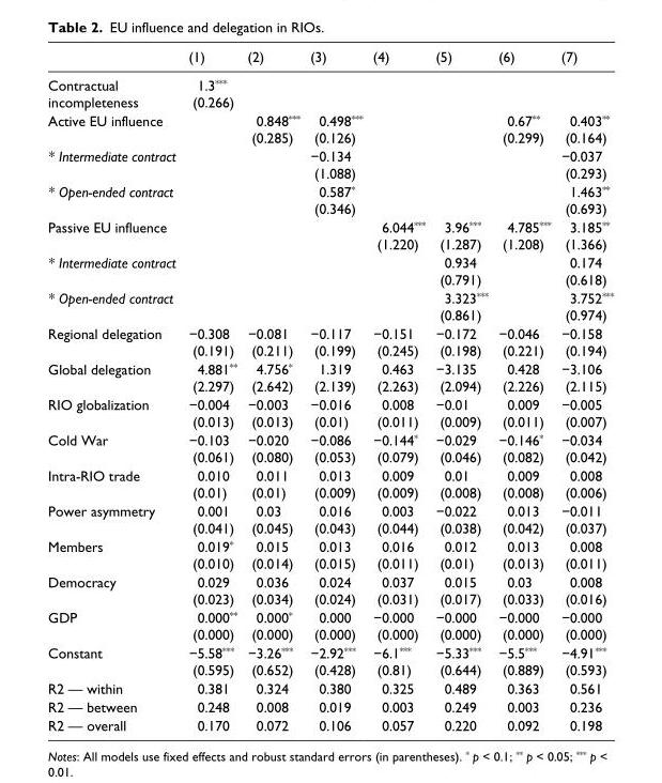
<table><thead><tr><td></td><td>(1)</td><td>(2)</td><td>(3)</td><td>(4)</td><td>(5)</td><td>(6)</td><td>(7)</td></tr></thead><tbody><tr><td>Contractual incompleteness</td><td>1.3*** (0.266)</td><td></td><td></td><td></td><td></td><td></td><td></td></tr><tr><td>Active EU influence</td><td></td><td>0.848*** (0.285)</td><td>0.498*** (0.126)</td><td></td><td></td><td>0.67** (0.299)</td><td>0.403** (0.164)</td></tr><tr><td>* Intermediate contract</td><td></td><td></td><td>−0.134 (1.088)</td><td></td><td></td><td></td><td>−0.037 (0.293)</td></tr><tr><td>* Open-ended contract</td><td></td><td></td><td>0.587* (0.346)</td><td></td><td></td><td></td><td>1.463** (0.693)</td></tr><tr><td>Passive EU influence</td><td></td><td></td><td></td><td>6.044*** (1.220)</td><td>3.96*** (1.287)</td><td>4.785*** (1.208)</td><td>3.185** (1.366)</td></tr><tr><td>* Intermediate contract</td><td></td><td></td><td></td><td></td><td>0.934 (0.791)</td><td></td><td>0.174 (0.618)</td></tr><tr><td>* Open-ended contract</td><td></td><td></td><td></td><td></td><td>3.323*** (0.861)</td><td></td><td>3.752*** (0.974)</td></tr><tr><td>Regional delegation</td><td>−0.308 (0.191)</td><td>−0.081 (0.211)</td><td>−0.117 (0.199)</td><td>−0.151 (0.245)</td><td>−0.172 (0.198)</td><td>−0.046 (0.221)</td><td>−0.158 (0.194)</td></tr><tr><td>Global delegation</td><td>4.881** (2.297)</td><td>4.756* (2.642)</td><td>1.319 (2.139)</td><td>0.463 (2.263)</td><td>−3.135 (2.094)</td><td>0.428 (2.226)</td><td>−3.106 (2.115)</td></tr><tr><td>RIO globalization</td><td>−0.004 (0.013)</td><td>−0.003 (0.013)</td><td>−0.016 (0.01)</td><td>0.008 (0.011)</td><td>−0.01 (0.009)</td><td>0.009 (0.011)</td><td>−0.005 (0.007)</td></tr><tr><td>Cold War</td><td>−0.103 (0.061)</td><td>−0.020 (0.080)</td><td>−0.086 (0.053)</td><td>−0.144* (0.079)</td><td>−0.029 (0.046)</td><td>−0.146* (0.082)</td><td>−0.034 (0.042)</td></tr><tr><td>Intra-RIO trade</td><td>0.010 (0.01)</td><td>0.011 (0.01)</td><td>0.013 (0.009)</td><td>0.009 (0.009)</td><td>0.01 (0.008)</td><td>0.009 (0.008)</td><td>0.008 (0.006)</td></tr><tr><td>Power asymmetry</td><td>0.001 (0.041)</td><td>0.03 (0.045)</td><td>0.016 (0.043)</td><td>0.003 (0.044)</td><td>−0.022 (0.038)</td><td>0.013 (0.042)</td><td>−0.011 (0.037)</td></tr><tr><td>Members</td><td>0.019* (0.010)</td><td>0.015 (0.014)</td><td>0.013 (0.015)</td><td>0.016 (0.011)</td><td>0.012 (0.01)</td><td>0.013 (0.013)</td><td>0.008 (0.011)</td></tr><tr><td>Democracy</td><td>0.029 (0.023)</td><td>0.036 (0.034)</td><td>0.024 (0.024)</td><td>0.037 (0.031)</td><td>0.015 (0.017)</td><td>0.03 (0.033)</td><td>0.008 (0.016)</td></tr><tr><td>GDP</td><td>0.000** (0.000)</td><td>0.000* (0.000)</td><td>0.000 (0.000)</td><td>−0.000 (0.000)</td><td>−0.000 (0.000)</td><td>−0.000 (0.000)</td><td>−0.000 (0.000)</td></tr><tr><td>Constant</td><td>−5.58*** (0.595)</td><td>−3.26*** (0.652)</td><td>−2.92*** (0.428)</td><td>−6.1*** (0.81)</td><td>−5.33*** (0.644)</td><td>−5.5*** (0.889)</td><td>−4.91*** (0.593)</td></tr><tr><td>R2 — within</td><td>0.381</td><td>0.324</td><td>0.380</td><td>0.325</td><td>0.489</td><td>0.363</td><td>0.561</td></tr><tr><td>R2 — between</td><td>0.248</td><td>0.008</td><td>0.019</td><td>0.003</td><td>0.249</td><td>0.003</td><td>0.236</td></tr><tr><td>R2 — overall</td><td>0.170</td><td>0.072</td><td>0.106</td><td>0.057</td><td>0.220</td><td>0.092</td><td>0.198</td></tr></tbody></table>